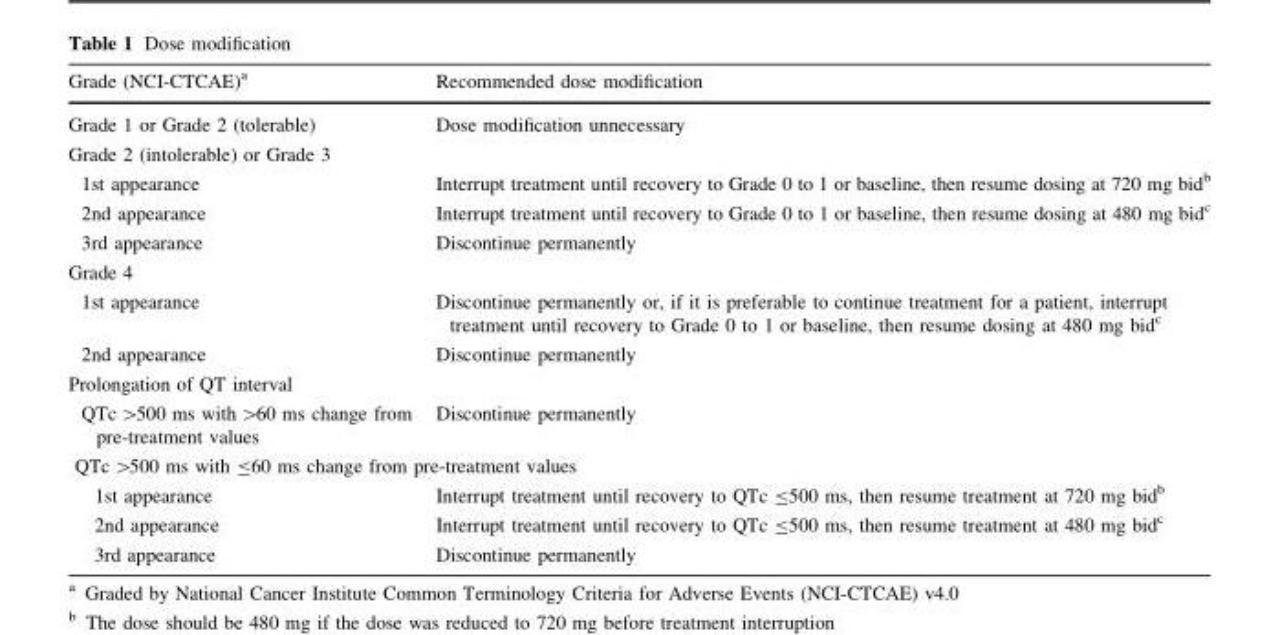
<table><thead><tr><td>Grade (NCI-CTCAE)<sup>a</sup></td><td>Recommended dose modification</td></tr></thead><tbody><tr><td>Grade 1 or Grade 2 (tolerable)</td><td>Dose modification unnecessary</td></tr><tr><td colspan="2">Grade 2 (intolerable) or Grade 3</td></tr><tr><td>1st appearance</td><td>Interrupt treatment until recovery to Grade 0 to 1 or baseline, then resume dosing at 720 mg bid<sup>b</sup></td></tr><tr><td>2nd appearance</td><td>Interrupt treatment until recovery to Grade 0 to 1 or baseline, then resume dosing at 480 mg bid<sup>c</sup></td></tr><tr><td>3rd appearance</td><td>Discontinue permanently</td></tr><tr><td colspan="2">Grade 4</td></tr><tr><td>1st appearance</td><td>Discontinue permanently or, if it is preferable to continue treatment for a patient, interrupt treatment until recovery to Grade 0 to 1 or baseline, then resume dosing at 480 mg bid<sup>c</sup></td></tr><tr><td>2nd appearance</td><td>Discontinue permanently</td></tr><tr><td colspan="2">Prolongation of QT interval</td></tr><tr><td>QTc &gt;500 ms with &gt;60 ms change from pre-treatment values</td><td>Discontinue permanently</td></tr><tr><td colspan="2">QTc &gt;500 ms with ≤60 ms change from pre-treatment values</td></tr><tr><td>1st appearance</td><td>Interrupt treatment until recovery to QTc ≤500 ms, then resume treatment at 720 mg bid<sup>b</sup></td></tr><tr><td>2nd appearance</td><td>Interrupt treatment until recovery to QTc ≤500 ms, then resume treatment at 480 mg bid<sup>c</sup></td></tr><tr><td>3rd appearance</td><td>Discontinue permanently</td></tr></tbody></table>